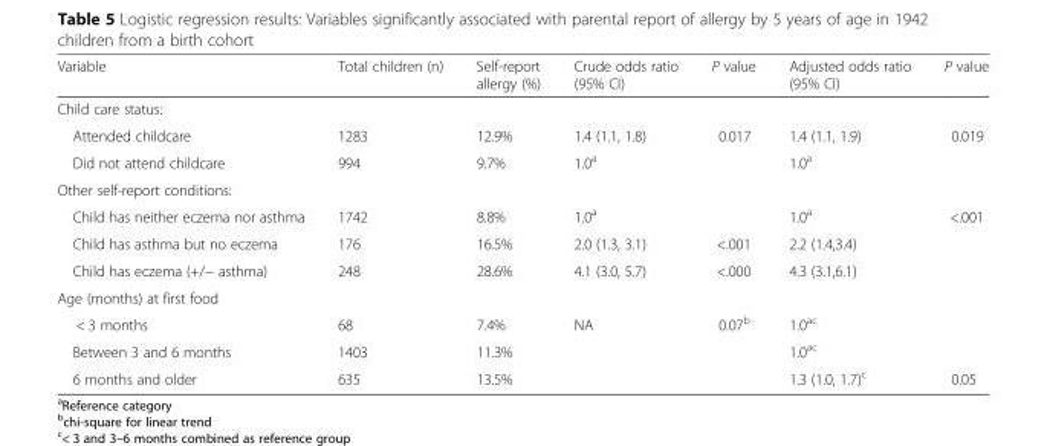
<table><thead><tr><td>Variable</td><td>Total children (n)</td><td>Self-report allergy (%)</td><td>Crude odds ratio (95% CI)</td><td>P value</td><td>Adjusted odds ratio (95% CI)</td><td>P value</td></tr></thead><tbody><tr><td colspan="7">Child care status:</td></tr><tr><td>Attended childcare</td><td>1283</td><td>12.9%</td><td>1.4 (1.1, 1.8)</td><td>0.017</td><td>1.4 (1.1, 1.9)</td><td>0.019</td></tr><tr><td>Did not attend childcare</td><td>994</td><td>9.7%</td><td>1.0<sup>a</sup></td><td></td><td>1.0<sup>a</sup></td><td></td></tr><tr><td colspan="7">Other self-report conditions:</td></tr><tr><td>Child has neither eczema nor asthma</td><td>1742</td><td>8.8%</td><td>1.0<sup>a</sup></td><td></td><td>1.0<sup>a</sup></td><td>&lt;.001</td></tr><tr><td>Child has asthma but no eczema</td><td>176</td><td>16.5%</td><td>2.0 (1.3, 3.1)</td><td>&lt;.001</td><td>2.2 (1.4,3.4)</td><td></td></tr><tr><td>Child has eczema (+/− asthma)</td><td>248</td><td>28.6%</td><td>4.1 (3.0, 5.7)</td><td>&lt;.000</td><td>4.3 (3.1,6.1)</td><td></td></tr><tr><td colspan="7">Age (months) at first food</td></tr><tr><td>&lt; 3 months</td><td>68</td><td>7.4%</td><td>NA</td><td>0.07<sup>b</sup></td><td>1.0<sup>ac</sup></td><td></td></tr><tr><td>Between 3 and 6 months</td><td>1403</td><td>11.3%</td><td></td><td></td><td>1.0<sup>ac</sup></td><td></td></tr><tr><td>6 months and older</td><td>635</td><td>13.5%</td><td></td><td></td><td>1.3 (1.0, 1.7)<sup>c</sup></td><td>0.05</td></tr></tbody></table>